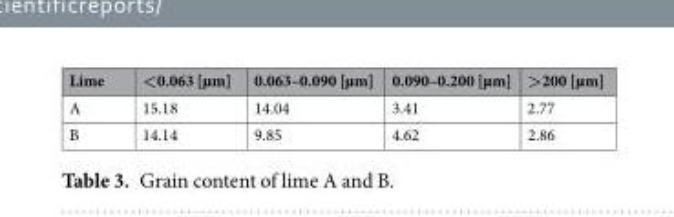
<table><thead><tr><td>Lime</td><td>&lt;0.063 [µm]</td><td>0.063–0.090 [µm]</td><td>0.090–0.200 [µm]</td><td>&gt;200 [µm]</td></tr></thead><tbody><tr><td>A</td><td>15.18</td><td>14.04</td><td>3.41</td><td>2.77</td></tr><tr><td>B</td><td>14.14</td><td>9.85</td><td>4.62</td><td>2.86</td></tr></tbody></table>